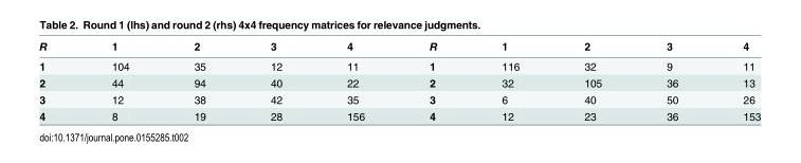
<table><thead><tr><td>R</td><td>1</td><td>2</td><td>3</td><td>4</td><td>R</td><td>1</td><td>2</td><td>3</td><td>4</td></tr></thead><tbody><tr><td>1</td><td>104</td><td>35</td><td>12</td><td>11</td><td>1</td><td>116</td><td>32</td><td>9</td><td>11</td></tr><tr><td>2</td><td>44</td><td>94</td><td>40</td><td>22</td><td>2</td><td>32</td><td>105</td><td>36</td><td>13</td></tr><tr><td>3</td><td>12</td><td>38</td><td>42</td><td>35</td><td>3</td><td>6</td><td>40</td><td>50</td><td>26</td></tr><tr><td>4</td><td>8</td><td>19</td><td>28</td><td>156</td><td>4</td><td>12</td><td>23</td><td>36</td><td>153</td></tr></tbody></table>